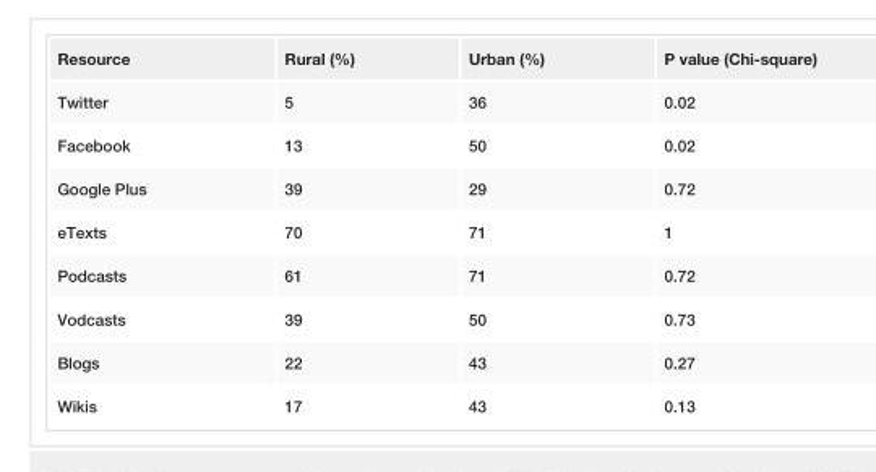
<table><tbody><tr><td>Resource</td><td>Rural (%)</td><td>Urban (%)</td><td>P value (Chi-square)</td></tr><tr><td>Twitter</td><td>5</td><td>36</td><td>0.02</td></tr><tr><td>Facebook</td><td>13</td><td>50</td><td>0.02</td></tr><tr><td>Google Plus</td><td>39</td><td>29</td><td>0.72</td></tr><tr><td>eTexts</td><td>70</td><td>71</td><td>1</td></tr><tr><td>Podcasts</td><td>61</td><td>71</td><td>0.72</td></tr><tr><td>Vodcasts</td><td>39</td><td>50</td><td>0.73</td></tr><tr><td>Blogs</td><td>22</td><td>43</td><td>0.27</td></tr><tr><td>Wikis</td><td>17</td><td>43</td><td>0.13</td></tr></tbody></table>